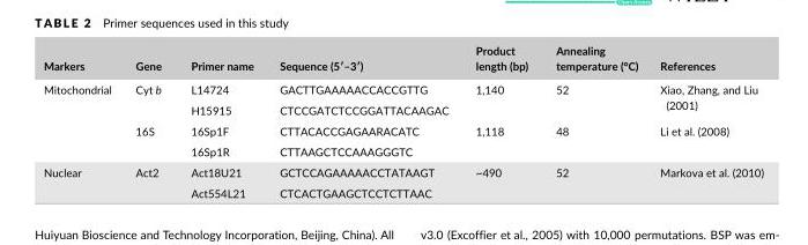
<table><thead><tr><td>Markers</td><td>Gene</td><td>Primer name</td><td>Sequence (5′–3′)</td><td>Product length (bp)</td><td>Annealing temperature (°C)</td><td>References</td></tr></thead><tbody><tr><td rowspan="4">Mitochondrial</td><td rowspan="2">Cyt b</td><td>L14724</td><td>GACTTGAAAAACCACCGTTG</td><td rowspan="2">1,140</td><td rowspan="2">52</td><td rowspan="2">Xiao, Zhang, and Liu (2001)</td></tr><tr><td>H15915</td><td>CTCCGATCTCCGGATTACAAGAC</td></tr><tr><td rowspan="2">16S</td><td>16Sp1F</td><td>CTTACACCGAGAARACATC</td><td rowspan="2">1,118</td><td rowspan="2">48</td><td>Li et al. (2008)</td></tr><tr><td>16Sp1R</td><td>CTTAAGCTCCAAAGGGTC</td><td></td></tr><tr><td rowspan="2">Nuclear</td><td rowspan="2">Act2</td><td>Act18U21</td><td>GCTCCAGAAAAACCTATAAGT</td><td rowspan="2">~490</td><td rowspan="2">52</td><td>Markova et al. (2010)</td></tr><tr><td>Act554L21</td><td>CTCACTGAAGCTCCTCTTAAC</td><td></td></tr></tbody></table>